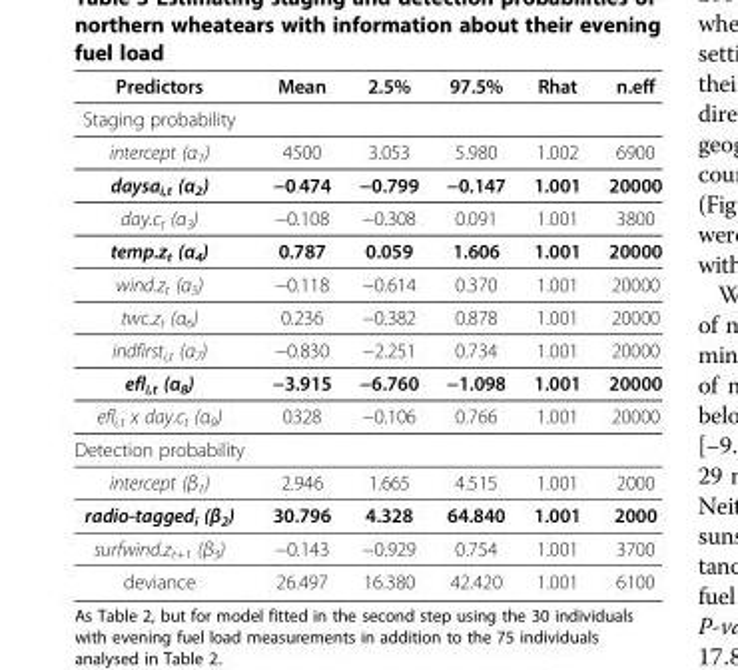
<table><thead><tr><td>Predictors</td><td>Mean</td><td>2.5%</td><td>97.5%</td><td>Rhat</td><td>n.eff</td></tr></thead><tbody><tr><td colspan="6">Staging probability</td></tr><tr><td>intercept (α<sub>1</sub>)</td><td>4500</td><td>3.053</td><td>5.980</td><td>1.002</td><td>6900</td></tr><tr><td>daysa<sub>i,t</sub> (α<sub>2</sub>)</td><td>−0.474</td><td>−0.799</td><td>−0.147</td><td>1.001</td><td>20000</td></tr><tr><td>day.c<sub>t</sub> (α<sub>3</sub>)</td><td>−0.108</td><td>−0.308</td><td>0.091</td><td>1.001</td><td>3800</td></tr><tr><td>temp.z<sub>t</sub> (α<sub>4</sub>)</td><td>0.787</td><td>0.059</td><td>1.606</td><td>1.001</td><td>20000</td></tr><tr><td>wind.z<sub>t</sub> (α<sub>5</sub>)</td><td>−0.118</td><td>−0.614</td><td>0.370</td><td>1.001</td><td>20000</td></tr><tr><td>twc.z<sub>t</sub> (α<sub>6</sub>)</td><td>0.236</td><td>−0.382</td><td>0.878</td><td>1.001</td><td>20000</td></tr><tr><td>indfirst<sub>i,t</sub> (α<sub>7</sub>)</td><td>−0.830</td><td>−2.251</td><td>0.734</td><td>1.001</td><td>20000</td></tr><tr><td>efl<sub>i,t</sub> (α<sub>8</sub>)</td><td>−3.915</td><td>−6.760</td><td>−1.098</td><td>1.001</td><td>20000</td></tr><tr><td>efl<sub>i,t</sub> x day.c<sub>t</sub> (α<sub>9</sub>)</td><td>0328</td><td>−0.106</td><td>0.766</td><td>1.001</td><td>20000</td></tr><tr><td colspan="6">Detection probability</td></tr><tr><td>intercept (β<sub>1</sub>)</td><td>2.946</td><td>1.665</td><td>4.515</td><td>1.001</td><td>2000</td></tr><tr><td>radio-tagged<sub>i</sub> (β<sub>2</sub>)</td><td>30.796</td><td>4.328</td><td>64.840</td><td>1.001</td><td>2000</td></tr><tr><td>surfwind.z<sub>t+1</sub> (β<sub>3</sub>)</td><td>−0.143</td><td>−0.929</td><td>0.754</td><td>1.001</td><td>3700</td></tr><tr><td>deviance</td><td>26.497</td><td>16.380</td><td>42.420</td><td>1.001</td><td>6100</td></tr></tbody></table>